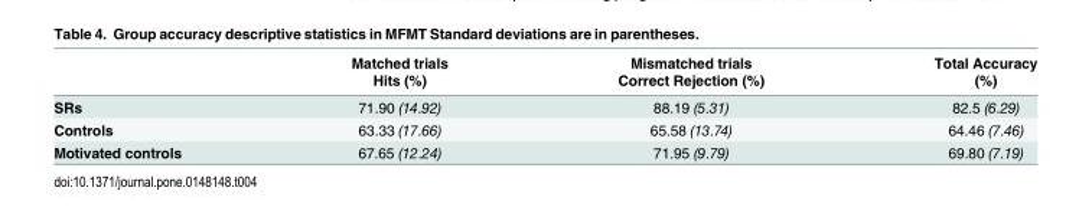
<table><thead><tr><td rowspan="2"></td><td rowspan="2">Matched trials Hits (%)</td><td rowspan="2">Mismatched trials Correct Rejection (%)</td><td rowspan="2">Total Accuracy (%)</td></tr><tr></tr></thead><tbody><tr><td>SRs</td><td>71.90 (14.92)</td><td>88.19 (5.31)</td><td>82.5 (6.29)</td></tr><tr><td>Controls</td><td>63.33 (17.66)</td><td>65.58 (13.74)</td><td>64.46 (7.46)</td></tr><tr><td>Motivated controls</td><td>67.65 (12.24)</td><td>71.95 (9.79)</td><td>69.80 (7.19)</td></tr></tbody></table>